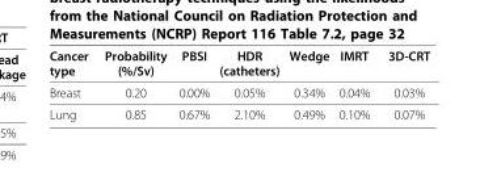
<table><thead><tr><td>Cancer type</td><td>Probability (%/Sv)</td><td>PBSI</td><td>HDR (catheters)</td><td>Wedge</td><td>IMRT</td><td>3D-CRT</td></tr></thead><tbody><tr><td>Breast</td><td>0.20</td><td>0.00%</td><td>0.05%</td><td>0.34%</td><td>0.04%</td><td>0.03%</td></tr><tr><td>Lung</td><td>0.85</td><td>0.67%</td><td>2.10%</td><td>0.49%</td><td>0.10%</td><td>0.07%</td></tr></tbody></table>